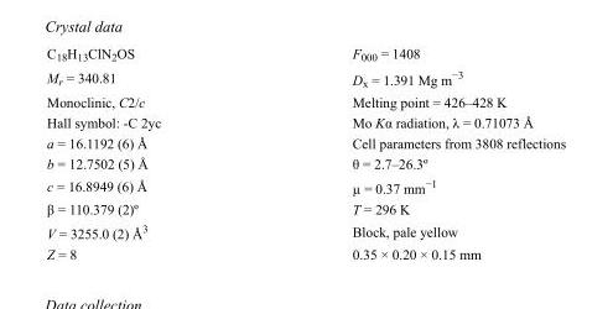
<table><tbody><tr><td>C<sub>18</sub>H<sub>13</sub>ClN<sub>2</sub>OS</td><td>F000 = 1408</td></tr><tr><td>M<sub>r</sub> = 340.81</td><td>D<sub>x</sub> = 1.391 Mg m<sup>−3</sup></td></tr><tr><td>Monoclinic, C2/c</td><td>Melting point = 426–428 K</td></tr><tr><td>Hall symbol: -C 2yc</td><td>Mo Kα radiation, λ = 0.71073 Å</td></tr><tr><td>a = 16.1192 (6) Å</td><td>Cell parameters from 3808 reflections</td></tr><tr><td>b = 12.7502 (5) Å</td><td>θ = 2.7–26.3º</td></tr><tr><td>c = 16.8949 (6) Å</td><td>µ = 0.37 mm<sup>−1</sup></td></tr><tr><td>β = 110.379 (2)º</td><td>T = 296 K</td></tr><tr><td>V = 3255.0 (2) Å<sup>3</sup></td><td>Block, pale yellow</td></tr><tr><td>Z = 8</td><td>0.35 × 0.20 × 0.15 mm</td></tr></tbody></table>